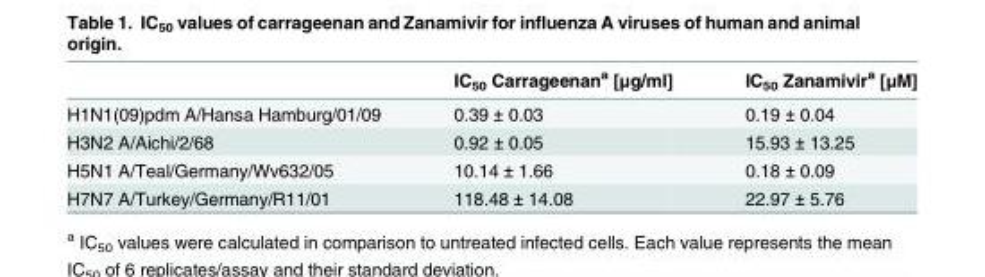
<table><thead><tr><td></td><td>IC<sub>50</sub> Carrageenan<sup>a</sup> [μg/ml]</td><td>IC<sub>50</sub> Zanamivir<sup>a</sup> [μM]</td></tr></thead><tbody><tr><td>H1N1(09)pdm A/Hansa Hamburg/01/09</td><td>0.39 ± 0.03</td><td>0.19 ± 0.04</td></tr><tr><td>H3N2 A/Aichi/2/68</td><td>0.92 ± 0.05</td><td>15.93 ± 13.25</td></tr><tr><td>H5N1 A/Teal/Germany/Wv632/05</td><td>10.14 ± 1.66</td><td>0.18 ± 0.09</td></tr><tr><td>H7N7 A/Turkey/Germany/R11/01</td><td>118.48 ± 14.08</td><td>22.97 ± 5.76</td></tr></tbody></table>